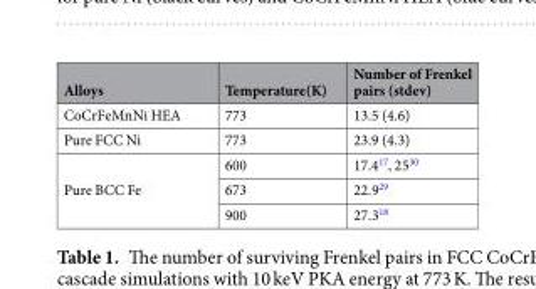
<table><thead><tr><td>Alloys</td><td>Temperature(K)</td><td>Number of Frenkel pairs (stdev)</td></tr></thead><tbody><tr><td>CoCrFeMnNi HEA</td><td>773</td><td>13.5 (4.6)</td></tr><tr><td>Pure FCC Ni</td><td>773</td><td>23.9 (4.3)</td></tr><tr><td rowspan="3">Pure BCC Fe</td><td>600</td><td>17.4<sup>17</sup>, 25<sup>30</sup></td></tr><tr><td>673</td><td>22.9<sup>29</sup></td></tr><tr><td>900</td><td>27.3<sup>18</sup></td></tr></tbody></table>